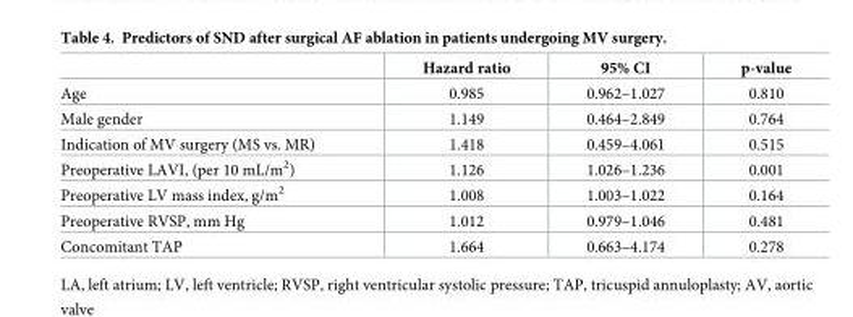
<table><thead><tr><td></td><td>Hazard ratio</td><td>95% CI</td><td>p-value</td></tr></thead><tbody><tr><td>Age</td><td>0.985</td><td>0.962–1.027</td><td>0.810</td></tr><tr><td>Male gender</td><td>1.149</td><td>0.464–2.849</td><td>0.764</td></tr><tr><td>Indication of MV surgery (MS vs. MR)</td><td>1.418</td><td>0.459–4.061</td><td>0.515</td></tr><tr><td>Preoperative LAVI, (per 10 mL/m<sup>2</sup>)</td><td>1.126</td><td>1.026–1.236</td><td>0.001</td></tr><tr><td>Preoperative LV mass index, g/m<sup>2</sup></td><td>1.008</td><td>1.003–1.022</td><td>0.164</td></tr><tr><td>Preoperative RVSP, mm Hg</td><td>1.012</td><td>0.979–1.046</td><td>0.481</td></tr><tr><td>Concomitant TAP</td><td>1.664</td><td>0.663–4.174</td><td>0.278</td></tr></tbody></table>